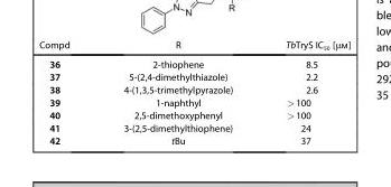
<table><thead><tr><td>Compd</td><td>R</td><td>TbTryS IC<sub>50</sub> [μm]</td></tr></thead><tbody><tr><td>36</td><td>2-thiophene</td><td>8.5</td></tr><tr><td>37</td><td>5-(2,4-dimethylthiazole)</td><td>2.2</td></tr><tr><td>38</td><td>4-(1,3,5-trimethylpyrazole)</td><td>2.6</td></tr><tr><td>39</td><td>1-naphthyl</td><td>&gt;100</td></tr><tr><td>40</td><td>2,5-dimethoxyphenyl</td><td>&gt;100</td></tr><tr><td>41</td><td>3-(2,5-dimethylthiophene)</td><td>24</td></tr><tr><td>42</td><td>tBu</td><td>37</td></tr></tbody></table>